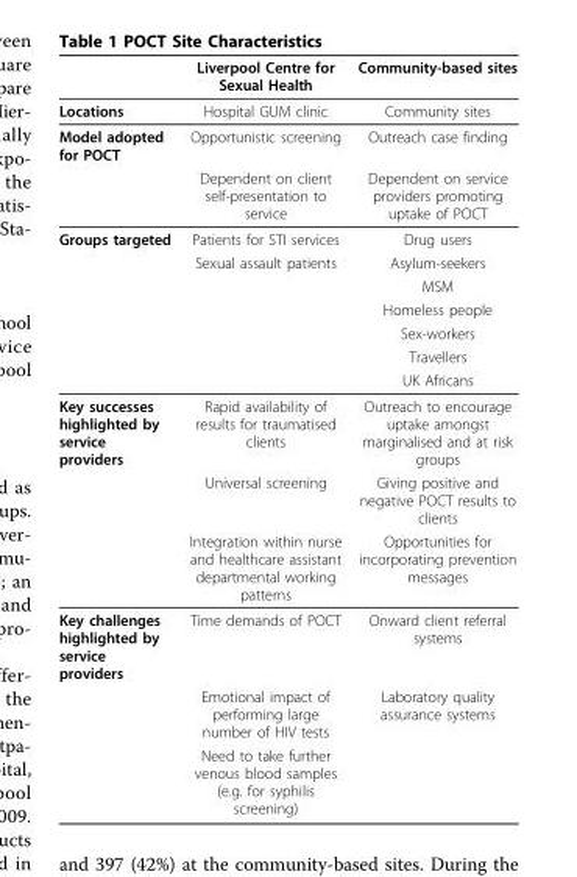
<table><thead><tr><td></td><td>Liverpool Centre for Sexual Health</td><td>Community-based sites</td></tr></thead><tbody><tr><td>Locations</td><td>Hospital GUM clinic</td><td>Community sites</td></tr><tr><td rowspan="2">Model adopted for POCT</td><td>Opportunistic screening</td><td>Outreach case finding</td></tr><tr><td>Dependent on client self-presentation to service</td><td>Dependent on service providers promoting uptake of POCT</td></tr><tr><td rowspan="7">Groups targeted</td><td>Patients for STI services</td><td>Drug users</td></tr><tr><td>Sexual assault patients</td><td>Asylum-seekers</td></tr><tr><td></td><td>MSM</td></tr><tr><td></td><td>Homeless people</td></tr><tr><td></td><td>Sex-workers</td></tr><tr><td></td><td>Travellers</td></tr><tr><td></td><td>UK Africans</td></tr><tr><td rowspan="3">Key successes highlighted by service providers</td><td>Rapid availability of results for traumatised clients</td><td>Outreach to encourage uptake amongst marginalised and at risk groups</td></tr><tr><td>Universal screening</td><td>Giving positive and negative POCT results to clients</td></tr><tr><td>Integration within nurse and healthcare assistant departmental working patterns</td><td>Opportunities for incorporating prevention messages</td></tr><tr><td rowspan="3">Key challenges highlighted by service providers</td><td>Time demands of POCT</td><td>Onward client referral systems</td></tr><tr><td>Emotional impact of performing large number of HIV tests</td><td>Laboratory quality assurance systems</td></tr><tr><td>Need to take further venous blood samples (e.g. for syphilis screening)</td><td></td></tr></tbody></table>